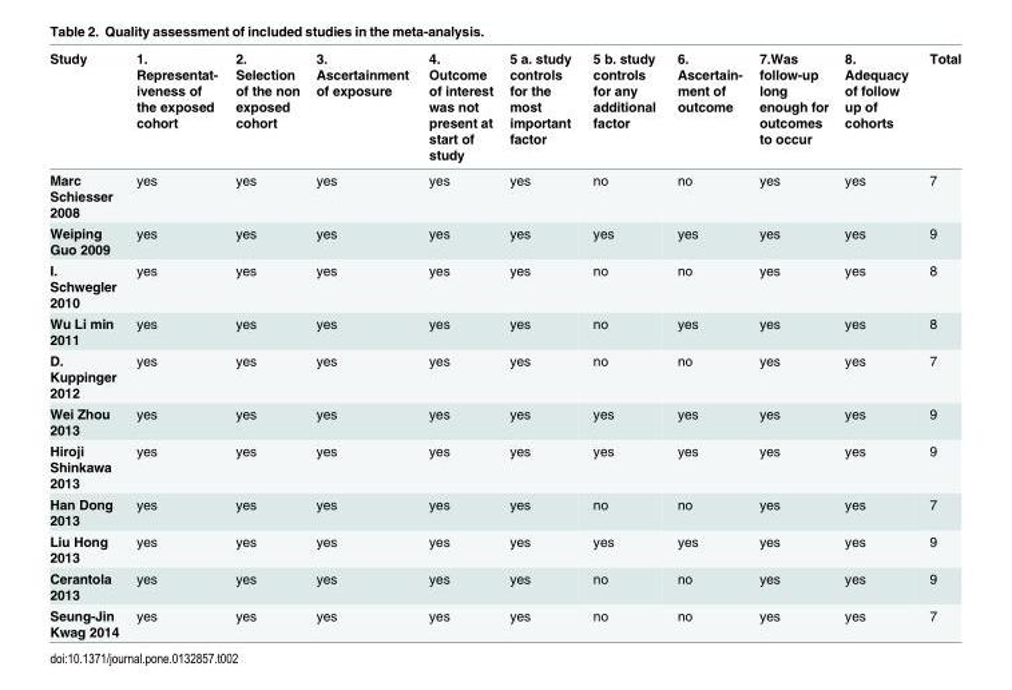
<table><thead><tr><td>Study</td><td>1. Representat- iveness of the exposed cohort</td><td>2. Selection of the non exposed cohort</td><td>3. Ascertainment of exposure</td><td>4. Outcome of interest was not present at start of study</td><td>5 a. study controls for the most important factor</td><td>5 b. study controls for any additional factor</td><td>6. Ascertain- ment of outcome</td><td>7.Was follow-up long enough for outcomes to occur</td><td>8. Adequacy of follow up of cohorts</td><td>Total</td></tr></thead><tbody><tr><td>Marc Schiesser 2008</td><td>yes</td><td>yes</td><td>yes</td><td>yes</td><td>yes</td><td>no</td><td>no</td><td>yes</td><td>yes</td><td>7</td></tr><tr><td>Weiping Guo 2009</td><td>yes</td><td>yes</td><td>yes</td><td>yes</td><td>yes</td><td>yes</td><td>yes</td><td>yes</td><td>yes</td><td>9</td></tr><tr><td>I. Schwegler 2010</td><td>yes</td><td>yes</td><td>yes</td><td>yes</td><td>yes</td><td>no</td><td>no</td><td>yes</td><td>yes</td><td>8</td></tr><tr><td>Wu Li min 2011</td><td>yes</td><td>yes</td><td>yes</td><td>yes</td><td>yes</td><td>no</td><td>yes</td><td>yes</td><td>yes</td><td>8</td></tr><tr><td>D. Kuppinger 2012</td><td>yes</td><td>yes</td><td>yes</td><td>yes</td><td>yes</td><td>no</td><td>no</td><td>yes</td><td>yes</td><td>7</td></tr><tr><td>Wei Zhou 2013</td><td>yes</td><td>yes</td><td>yes</td><td>yes</td><td>yes</td><td>yes</td><td>yes</td><td>yes</td><td>yes</td><td>9</td></tr><tr><td>Hiroji Shinkawa 2013</td><td>yes</td><td>yes</td><td>yes</td><td>yes</td><td>yes</td><td>yes</td><td>yes</td><td>yes</td><td>yes</td><td>9</td></tr><tr><td>Han Dong 2013</td><td>yes</td><td>yes</td><td>yes</td><td>yes</td><td>yes</td><td>no</td><td>no</td><td>yes</td><td>yes</td><td>7</td></tr><tr><td>Liu Hong 2013</td><td>yes</td><td>yes</td><td>yes</td><td>yes</td><td>yes</td><td>yes</td><td>yes</td><td>yes</td><td>yes</td><td>9</td></tr><tr><td>Cerantola 2013</td><td>yes</td><td>yes</td><td>yes</td><td>yes</td><td>yes</td><td>no</td><td>no</td><td>yes</td><td>yes</td><td>9</td></tr><tr><td>Seung-Jin Kwag 2014</td><td>yes</td><td>yes</td><td>yes</td><td>yes</td><td>yes</td><td>no</td><td>no</td><td>yes</td><td>yes</td><td>7</td></tr></tbody></table>